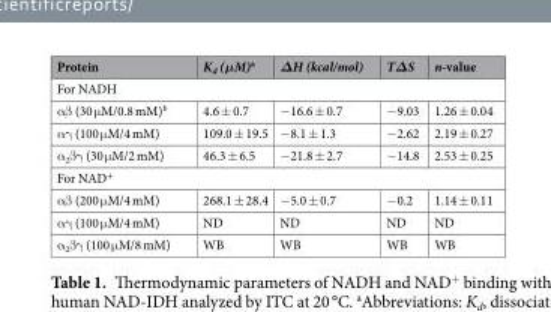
<table><thead><tr><td>Protein</td><td>K<sub>d</sub> (μM)<sup>a</sup></td><td>ΔH (kcal/mol)</td><td>TΔS</td><td>n-value</td></tr></thead><tbody><tr><td colspan="5">For NADH</td></tr><tr><td>αβ (30 μM/0.8 mM)<sup>b</sup></td><td>4.6 ± 0.7</td><td>−16.6 ± 0.7</td><td>−9.03</td><td>1.26 ± 0.04</td></tr><tr><td>αγ (100 μM/4 mM)</td><td>109.0 ± 19.5</td><td>−8.1 ± 1.3</td><td>−2.62</td><td>2.19 ± 0.27</td></tr><tr><td>α<sub>2</sub>βγ (30 μM/2 mM)</td><td>46.3 ± 6.5</td><td>−21.8 ± 2.7</td><td>−14.8</td><td>2.53 ± 0.25</td></tr><tr><td colspan="5">For NAD<sup>+</sup></td></tr><tr><td>αβ (200 μM/4 mM)</td><td>268.1 ± 28.4</td><td>−5.0 ± 0.7</td><td>−0.2</td><td>1.14 ± 0.11</td></tr><tr><td>αγ (100 μM/4 mM)</td><td>ND</td><td>ND</td><td>ND</td><td>ND</td></tr><tr><td>α<sub>2</sub>βγ (100 μM/8 mM)</td><td>WB</td><td>WB</td><td>WB</td><td>WB</td></tr></tbody></table>